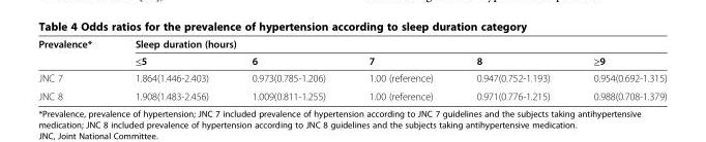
<table><thead><tr><td rowspan="2">Prevalence*</td><td colspan="5">Sleep duration (hours)</td></tr><tr><td>≤5</td><td>6</td><td>7</td><td>8</td><td>≥9</td></tr></thead><tbody><tr><td>JNC 7</td><td>1.864(1.446-2.403)</td><td>0.973(0.785-1.206)</td><td>1.00 (reference)</td><td>0.947(0.752-1.193)</td><td>0.954(0.692-1.315)</td></tr><tr><td>JNC 8</td><td>1.908(1.483-2.456)</td><td>1.009(0.811-1.255)</td><td>1.00 (reference)</td><td>0.971(0.776-1.215)</td><td>0.988(0.708-1.379)</td></tr></tbody></table>